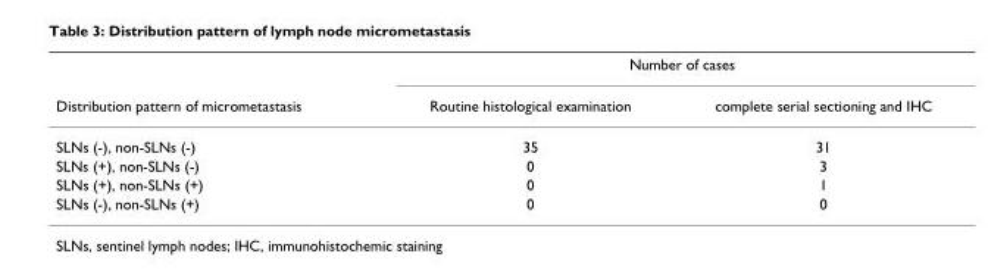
<table><thead><tr><td rowspan="2">Distribution pattern of micrometastasis</td><td colspan="2">Number of cases</td></tr><tr><td>Routine histological examination</td><td>complete serial sectioning and IHC</td></tr></thead><tbody><tr><td>SLNs (-), non-SLNs (-)</td><td>35</td><td>31</td></tr><tr><td>SLNs (+), non-SLNs (-)</td><td>0</td><td>3</td></tr><tr><td>SLNs (+), non-SLNs (+)</td><td>0</td><td>1</td></tr><tr><td>SLNs (-), non-SLNs (+)</td><td>0</td><td>0</td></tr></tbody></table>